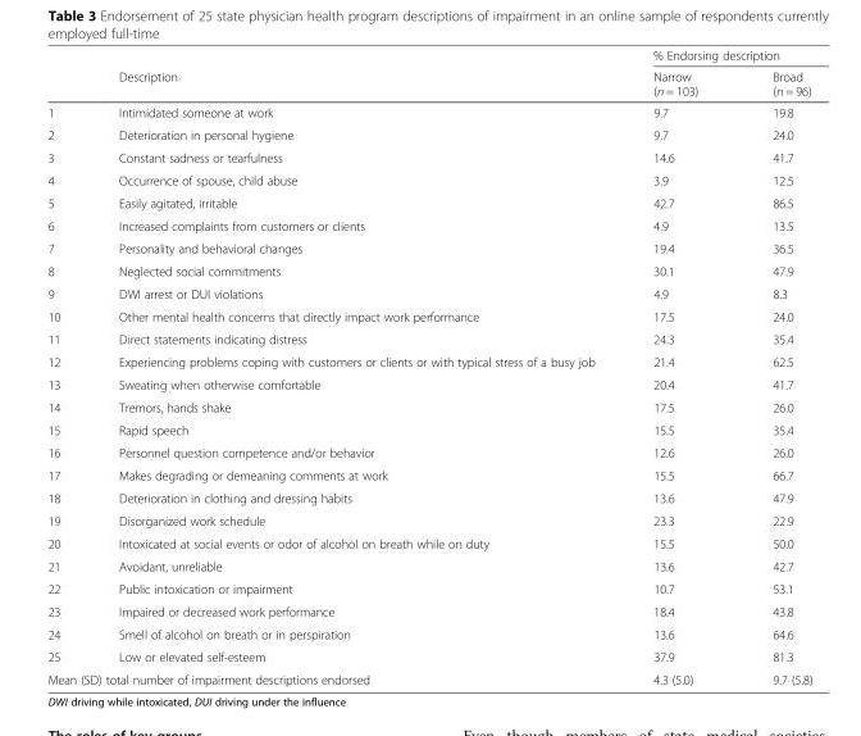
<table><thead><tr><td rowspan="2"></td><td rowspan="2">Description</td><td colspan="2">% Endorsing description</td></tr><tr><td>Narrow (n = 103)</td><td>Broad (n = 96)</td></tr></thead><tbody><tr><td>1</td><td>Intimidated someone at work</td><td>9.7</td><td>19.8</td></tr><tr><td>2</td><td>Deterioration in personal hygiene</td><td>9.7</td><td>24.0</td></tr><tr><td>3</td><td>Constant sadness or tearfulness</td><td>14.6</td><td>41.7</td></tr><tr><td>4</td><td>Occurrence of spouse, child abuse</td><td>3.9</td><td>12.5</td></tr><tr><td>5</td><td>Easily agitated, irritable</td><td>42.7</td><td>86.5</td></tr><tr><td>6</td><td>Increased complaints from customers or clients</td><td>4.9</td><td>13.5</td></tr><tr><td>7</td><td>Personality and behavioral changes</td><td>19.4</td><td>36.5</td></tr><tr><td>8</td><td>Neglected social commitments</td><td>30.1</td><td>47.9</td></tr><tr><td>9</td><td>DWI arrest or DUI violations</td><td>4.9</td><td>8.3</td></tr><tr><td>10</td><td>Other mental health concerns that directly impact work performance</td><td>17.5</td><td>24.0</td></tr><tr><td>11</td><td>Direct statements indicating distress</td><td>24.3</td><td>35.4</td></tr><tr><td>12</td><td>Experiencing problems coping with customers or clients or with typical stress of a busy job</td><td>21.4</td><td>62.5</td></tr><tr><td>13</td><td>Sweating when otherwise comfortable</td><td>20.4</td><td>41.7</td></tr><tr><td>14</td><td>Tremors, hands shake</td><td>17.5</td><td>26.0</td></tr><tr><td>15</td><td>Rapid speech</td><td>15.5</td><td>35.4</td></tr><tr><td>16</td><td>Personnel question competence and/or behavior</td><td>12.6</td><td>26.0</td></tr><tr><td>17</td><td>Makes degrading or demeaning comments at work</td><td>15.5</td><td>66.7</td></tr><tr><td>18</td><td>Deterioration in clothing and dressing habits</td><td>13.6</td><td>47.9</td></tr><tr><td>19</td><td>Disorganized work schedule</td><td>23.3</td><td>22.9</td></tr><tr><td>20</td><td>Intoxicated at social events or odor of alcohol on breath while on duty</td><td>15.5</td><td>50.0</td></tr><tr><td>21</td><td>Avoidant, unreliable</td><td>13.6</td><td>42.7</td></tr><tr><td>22</td><td>Public intoxication or impairment</td><td>10.7</td><td>53.1</td></tr><tr><td>23</td><td>Impaired or decreased work performance</td><td>18.4</td><td>43.8</td></tr><tr><td>24</td><td>Smell of alcohol on breath or in perspiration</td><td>13.6</td><td>64.6</td></tr><tr><td>25</td><td>Low or elevated self-esteem</td><td>37.9</td><td>81.3</td></tr><tr><td colspan="2">Mean (SD) total number of impairment descriptions endorsed</td><td>4.3 (5.0)</td><td>9.7 (5.8)</td></tr></tbody></table>